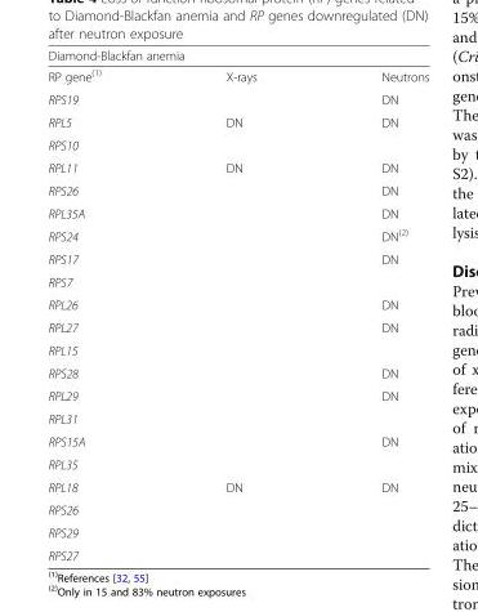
<table><thead><tr><td colspan="3">Diamond-Blackfan anemia</td></tr><tr><td>RP gene<sup>(1)</sup></td><td>X-rays</td><td>Neutrons</td></tr></thead><tbody><tr><td>RPS19</td><td></td><td>DN</td></tr><tr><td>RPL5</td><td>DN</td><td>DN</td></tr><tr><td colspan="3">RPS10</td></tr><tr><td>RPL11</td><td>DN</td><td>DN</td></tr><tr><td>RPS26</td><td></td><td>DN</td></tr><tr><td>RPL35A</td><td></td><td>DN</td></tr><tr><td>RPS24</td><td></td><td>DN<sup>(2)</sup></td></tr><tr><td>RPS17</td><td></td><td>DN</td></tr><tr><td colspan="3">RPS7</td></tr><tr><td>RPL26</td><td></td><td>DN</td></tr><tr><td>RPL27</td><td></td><td>DN</td></tr><tr><td colspan="3">RPL15</td></tr><tr><td>RPS28</td><td></td><td>DN</td></tr><tr><td>RPL29</td><td></td><td>DN</td></tr><tr><td colspan="3">RPL31</td></tr><tr><td>RPS15A</td><td></td><td>DN</td></tr><tr><td colspan="3">RPL35</td></tr><tr><td>RPL18</td><td>DN</td><td>DN</td></tr><tr><td colspan="3">RPS26</td></tr><tr><td colspan="3">RPS29</td></tr><tr><td>RPS27</td><td></td><td></td></tr></tbody></table>